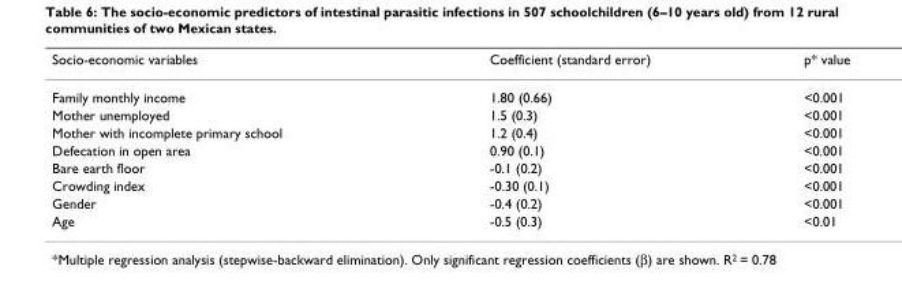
<table><thead><tr><td>Socio-economic variables</td><td>Coefficient (standard error)</td><td>p* value</td></tr></thead><tbody><tr><td>Family monthly income</td><td>1.80 (0.66)</td><td>&lt;0.001</td></tr><tr><td>Mother unemployed</td><td>1.5 (0.3)</td><td>&lt;0.001</td></tr><tr><td>Mother with incomplete primary school</td><td>1.2 (0.4)</td><td>&lt;0.001</td></tr><tr><td>Defecation in open area</td><td>0.90 (0.1)</td><td>&lt;0.001</td></tr><tr><td>Bare earth floor</td><td>-0.1 (0.2)</td><td>&lt;0.001</td></tr><tr><td>Crowding index</td><td>-0.30 (0.1)</td><td>&lt;0.001</td></tr><tr><td>Gender</td><td>-0.4 (0.2)</td><td>&lt;0.001</td></tr><tr><td>Age</td><td>-0.5 (0.3)</td><td>&lt;0.01</td></tr></tbody></table>